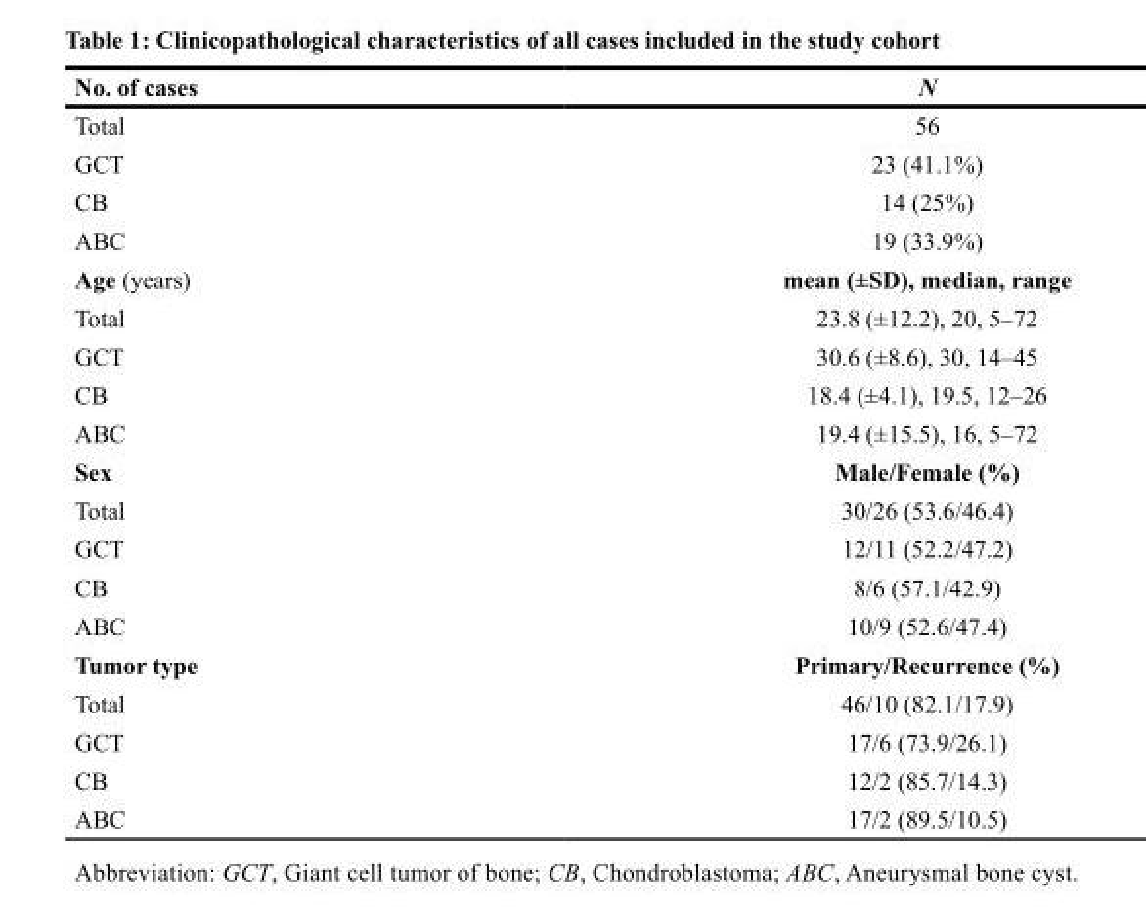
<table><thead><tr><td>No. of cases</td><td>N</td></tr></thead><tbody><tr><td>Total</td><td>56</td></tr><tr><td>GCT</td><td>23 (41.1%)</td></tr><tr><td>CB</td><td>14 (25%)</td></tr><tr><td>ABC</td><td>19 (33.9%)</td></tr><tr><td>Age (years)</td><td>mean (±SD), median, range</td></tr><tr><td>Total</td><td>23.8 (±12.2), 20, 5–72</td></tr><tr><td>GCT</td><td>30.6 (±8.6), 30, 14–45</td></tr><tr><td>CB</td><td>18.4 (±4.1), 19.5, 12–26</td></tr><tr><td>ABC</td><td>19.4 (±15.5), 16, 5–72</td></tr><tr><td>Sex</td><td>Male/Female (%)</td></tr><tr><td>Total</td><td>30/26 (53.6/46.4)</td></tr><tr><td>GCT</td><td>12/11 (52.2/47.2)</td></tr><tr><td>CB</td><td>8/6 (57.1/42.9)</td></tr><tr><td>ABC</td><td>10/9 (52.6/47.4)</td></tr><tr><td>Tumor type</td><td>Primary/Recurrence (%)</td></tr><tr><td>Total</td><td>46/10 (82.1/17.9)</td></tr><tr><td>GCT</td><td>17/6 (73.9/26.1)</td></tr><tr><td>CB</td><td>12/2 (85.7/14.3)</td></tr><tr><td>ABC</td><td>17/2 (89.5/10.5)</td></tr></tbody></table>